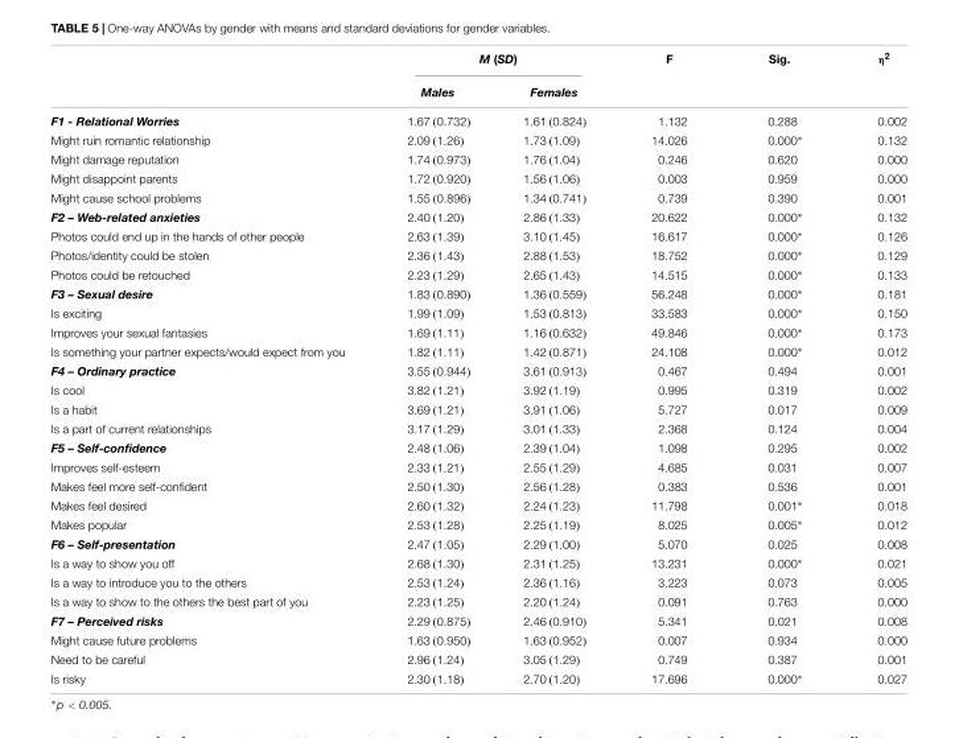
<table><thead><tr><td rowspan="2"></td><td colspan="2">M (SD)</td><td rowspan="2">F</td><td rowspan="2">Sig.</td><td rowspan="2">η<sup>2</sup></td></tr><tr><td>Males</td><td>Females</td></tr></thead><tbody><tr><td>F1 - Relational Worries</td><td>1.67 (0.732)</td><td>1.61 (0.824)</td><td>1.132</td><td>0.288</td><td>0.002</td></tr><tr><td>Might ruin romantic relationship</td><td>2.09 (1.26)</td><td>1.73 (1.09)</td><td>14.026</td><td>0.000∗</td><td>0.132</td></tr><tr><td>Might damage reputation</td><td>1.74 (0.973)</td><td>1.76 (1.04)</td><td>0.246</td><td>0.620</td><td>0.000</td></tr><tr><td>Might disappoint parents</td><td>1.72 (0.920)</td><td>1.56 (1.06)</td><td>0.003</td><td>0.959</td><td>0.000</td></tr><tr><td>Might cause school problems</td><td>1.55 (0.896)</td><td>1.34 (0.741)</td><td>0.739</td><td>0.390</td><td>0.001</td></tr><tr><td>F2 – Web-related anxieties</td><td>2.40 (1.20)</td><td>2.86 (1.33)</td><td>20.622</td><td>0.000∗</td><td>0.132</td></tr><tr><td>Photos could end up in the hands of other people</td><td>2.63 (1.39)</td><td>3.10 (1.45)</td><td>16.617</td><td>0.000∗</td><td>0.126</td></tr><tr><td>Photos/identity could be stolen</td><td>2.36 (1.43)</td><td>2.88 (1.53)</td><td>18.752</td><td>0.000∗</td><td>0.129</td></tr><tr><td>Photos could be retouched</td><td>2.23 (1.29)</td><td>2.65 (1.43)</td><td>14.515</td><td>0.000∗</td><td>0.133</td></tr><tr><td>F3 – Sexual desire</td><td>1.83 (0.890)</td><td>1.36 (0.559)</td><td>56.248</td><td>0.000∗</td><td>0.181</td></tr><tr><td>Is exciting</td><td>1.99 (1.09)</td><td>1.53 (0.813)</td><td>33.583</td><td>0.000∗</td><td>0.150</td></tr><tr><td>Improves your sexual fantasies</td><td>1.69 (1.11)</td><td>1.16 (0.632)</td><td>49.846</td><td>0.000∗</td><td>0.173</td></tr><tr><td>Is something your partner expects/would expect from you</td><td>1.82 (1.11)</td><td>1.42 (0.871)</td><td>24.108</td><td>0.000∗</td><td>0.012</td></tr><tr><td>F4 – Ordinary practice</td><td>3.55 (0.944)</td><td>3.61 (0.913)</td><td>0.467</td><td>0.494</td><td>0.001</td></tr><tr><td>Is cool</td><td>3.82 (1.21)</td><td>3.92 (1.19)</td><td>0.995</td><td>0.319</td><td>0.002</td></tr><tr><td>Is a habit</td><td>3.69 (1.21)</td><td>3.91 (1.06)</td><td>5.727</td><td>0.017</td><td>0.009</td></tr><tr><td>Is a part of current relationships</td><td>3.17 (1.29)</td><td>3.01 (1.33)</td><td>2.368</td><td>0.124</td><td>0.004</td></tr><tr><td>F5 – Self-confidence</td><td>2.48 (1.06)</td><td>2.39 (1.04)</td><td>1.098</td><td>0.295</td><td>0.002</td></tr><tr><td>Improves self-esteem</td><td>2.33 (1.21)</td><td>2.55 (1.29)</td><td>4.685</td><td>0.031</td><td>0.007</td></tr><tr><td>Makes feel more self-confident</td><td>2.50 (1.30)</td><td>2.56 (1.28)</td><td>0.383</td><td>0.536</td><td>0.001</td></tr><tr><td>Makes feel desired</td><td>2.60 (1.32)</td><td>2.24 (1.23)</td><td>11.798</td><td>0.001∗</td><td>0.018</td></tr><tr><td>Makes popular</td><td>2.53 (1.28)</td><td>2.25 (1.19)</td><td>8.025</td><td>0.005∗</td><td>0.012</td></tr><tr><td>F6 – Self-presentation</td><td>2.47 (1.05)</td><td>2.29 (1.00)</td><td>5.070</td><td>0.025</td><td>0.008</td></tr><tr><td>Is a way to show you off</td><td>2.68 (1.30)</td><td>2.31 (1.25)</td><td>13.231</td><td>0.000∗</td><td>0.021</td></tr><tr><td>Is a way to introduce you to the others</td><td>2.53 (1.24)</td><td>2.36 (1.16)</td><td>3.223</td><td>0.073</td><td>0.005</td></tr><tr><td>Is a way to show to the others the best part of you</td><td>2.23 (1.25)</td><td>2.20 (1.24)</td><td>0.091</td><td>0.763</td><td>0.000</td></tr><tr><td>F7 – Perceived risks</td><td>2.29 (0.875)</td><td>2.46 (0.910)</td><td>5.341</td><td>0.021</td><td>0.008</td></tr><tr><td>Might cause future problems</td><td>1.63 (0.950)</td><td>1.63 (0.952)</td><td>0.007</td><td>0.934</td><td>0.000</td></tr><tr><td>Need to be careful</td><td>2.96 (1.24)</td><td>3.05 (1.29)</td><td>0.749</td><td>0.387</td><td>0.001</td></tr><tr><td>Is risky</td><td>2.30 (1.18)</td><td>2.70 (1.20)</td><td>17.696</td><td>0.000∗</td><td>0.027</td></tr></tbody></table>